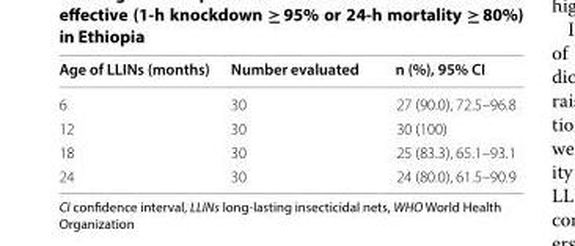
<table><thead><tr><td>Age of LLINs (months)</td><td>Number evaluated</td><td>n (%), 95% CI</td></tr></thead><tbody><tr><td>6</td><td>30</td><td>27 (90.0), 72.5–96.8</td></tr><tr><td>12</td><td>30</td><td>30 (100)</td></tr><tr><td>18</td><td>30</td><td>25 (83.3), 65.1–93.1</td></tr><tr><td>24</td><td>30</td><td>24 (80.0), 61.5–90.9</td></tr></tbody></table>